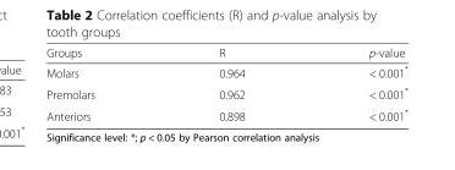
<table><thead><tr><td>Groups</td><td>R</td><td>p-value</td></tr></thead><tbody><tr><td>Molars</td><td>0.964</td><td>&lt; 0.001*</td></tr><tr><td>Premolars</td><td>0.962</td><td>&lt; 0.001*</td></tr><tr><td>Anteriors</td><td>0.898</td><td>&lt; 0.001*</td></tr></tbody></table>